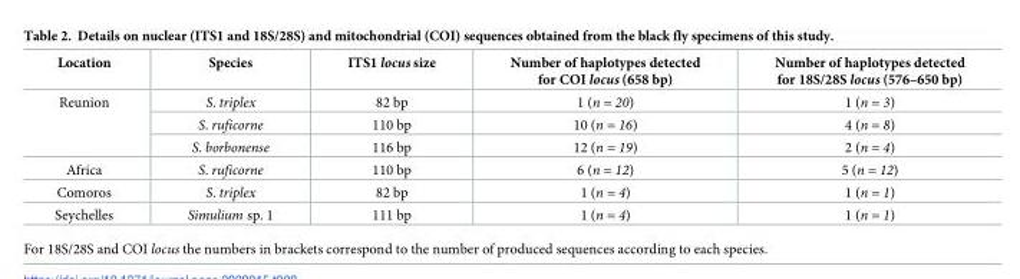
<table><thead><tr><td>Location</td><td>Species</td><td>ITS1 locus size</td><td>Number of haplotypes detected for COI locus (658 bp)</td><td>Number of haplotypes detected for 18S/28S locus (576–650 bp)</td></tr></thead><tbody><tr><td rowspan="3">Reunion</td><td>S. triplex</td><td>82 bp</td><td>1 (n = 20)</td><td>1 (n = 3)</td></tr><tr><td>S. ruficorne</td><td>110 bp</td><td>10 (n = 16)</td><td>4 (n = 8)</td></tr><tr><td>S. borbonense</td><td>116 bp</td><td>12 (n = 19)</td><td>2 (n = 4)</td></tr><tr><td>Africa</td><td>S. ruficorne</td><td>110 bp</td><td>6 (n = 12)</td><td>5 (n = 12)</td></tr><tr><td>Comoros</td><td>S. triplex</td><td>82 bp</td><td>1 (n = 4)</td><td>1 (n = 1)</td></tr><tr><td>Seychelles</td><td>Simulium sp. 1</td><td>111 bp</td><td>1 (n = 4)</td><td>1 (n = 1)</td></tr></tbody></table>